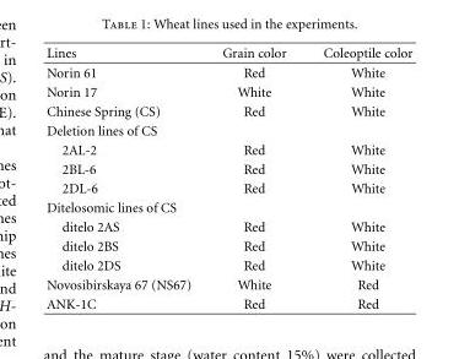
<table><thead><tr><td>Lines</td><td>Grain color</td><td>Coleoptile color</td></tr></thead><tbody><tr><td>Norin 61</td><td>Red</td><td>White</td></tr><tr><td>Norin 17</td><td>White</td><td>White</td></tr><tr><td>Chinese Spring (CS)</td><td>Red</td><td>White</td></tr><tr><td colspan="3">Deletion lines of CS</td></tr><tr><td>2AL-2</td><td>Red</td><td>White</td></tr><tr><td>2BL-6</td><td>Red</td><td>White</td></tr><tr><td>2DL-6</td><td>Red</td><td>White</td></tr><tr><td colspan="3">Ditelosomic lines of CS</td></tr><tr><td>ditelo 2AS</td><td>Red</td><td>White</td></tr><tr><td>ditelo 2BS</td><td>Red</td><td>White</td></tr><tr><td>ditelo 2DS</td><td>Red</td><td>White</td></tr><tr><td>Novosibirskaya 67 (NS67)</td><td>White</td><td>Red</td></tr><tr><td>ANK-1C</td><td>Red</td><td>Red</td></tr></tbody></table>